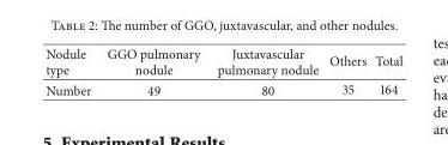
<table><thead><tr><td>Nodule type</td><td>GGO pulmonary nodule</td><td>Juxtavascular pulmonary nodule</td><td>Others</td><td>Total</td></tr></thead><tbody><tr><td>Number</td><td>49</td><td>80</td><td>35</td><td>164</td></tr></tbody></table>